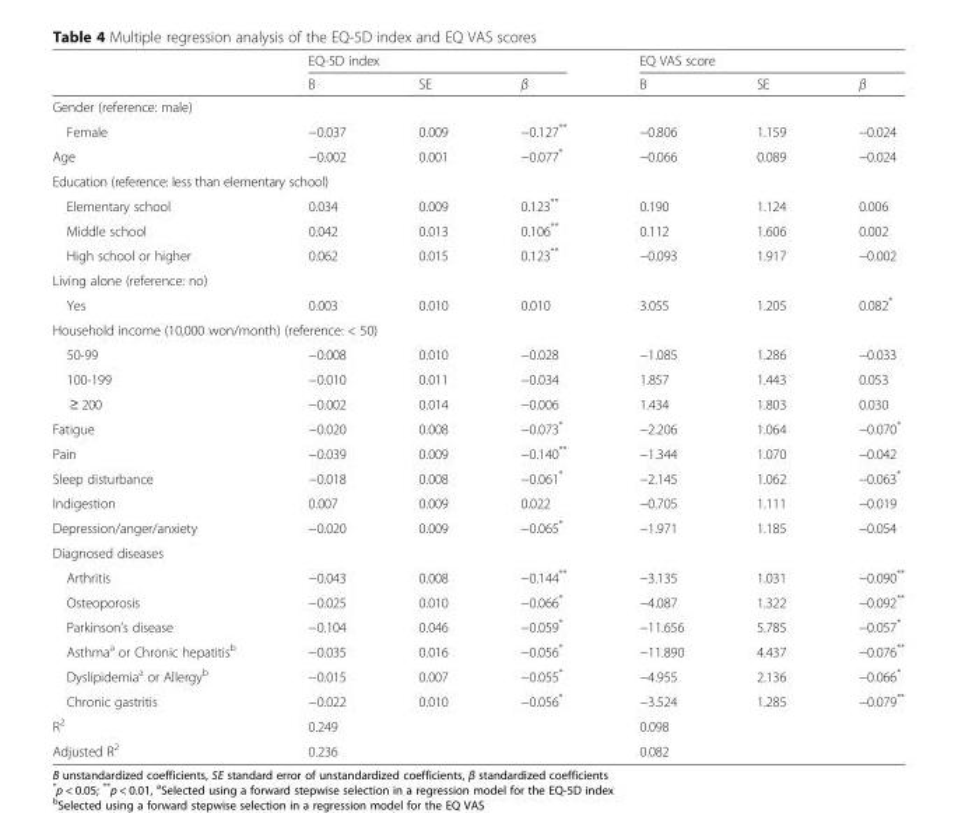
<table><thead><tr><td rowspan="2"></td><td colspan="3">EQ-5D index</td><td colspan="3">EQ VAS score</td></tr><tr><td>B</td><td>SE</td><td>β</td><td>B</td><td>SE</td><td>β</td></tr></thead><tbody><tr><td colspan="7">Gender (reference: male)</td></tr><tr><td>Female</td><td>−0.037</td><td>0.009</td><td>−0.127**</td><td>−0.806</td><td>1.159</td><td>−0.024</td></tr><tr><td>Age</td><td>−0.002</td><td>0.001</td><td>−0.077*</td><td>−0.066</td><td>0.089</td><td>−0.024</td></tr><tr><td colspan="7">Education (reference: less than elementary school)</td></tr><tr><td>Elementary school</td><td>0.034</td><td>0.009</td><td>0.123**</td><td>0.190</td><td>1.124</td><td>0.006</td></tr><tr><td>Middle school</td><td>0.042</td><td>0.013</td><td>0.106**</td><td>0.112</td><td>1.606</td><td>0.002</td></tr><tr><td>High school or higher</td><td>0.062</td><td>0.015</td><td>0.123**</td><td>−0.093</td><td>1.917</td><td>−0.002</td></tr><tr><td colspan="7">Living alone (reference: no)</td></tr><tr><td>Yes</td><td>0.003</td><td>0.010</td><td>0.010</td><td>3.055</td><td>1.205</td><td>0.082*</td></tr><tr><td colspan="7">Household income (10,000 won/month) (reference: &lt; 50)</td></tr><tr><td>50-99</td><td>−0.008</td><td>0.010</td><td>−0.028</td><td>−1.085</td><td>1.286</td><td>−0.033</td></tr><tr><td>100-199</td><td>−0.010</td><td>0.011</td><td>−0.034</td><td>1.857</td><td>1.443</td><td>0.053</td></tr><tr><td>≥ 200</td><td>−0.002</td><td>0.014</td><td>−0.006</td><td>1.434</td><td>1.803</td><td>0.030</td></tr><tr><td>Fatigue</td><td>−0.020</td><td>0.008</td><td>−0.073*</td><td>−2.206</td><td>1.064</td><td>−0.070*</td></tr><tr><td>Pain</td><td>−0.039</td><td>0.009</td><td>−0.140**</td><td>−1.344</td><td>1.070</td><td>−0.042</td></tr><tr><td>Sleep disturbance</td><td>−0.018</td><td>0.008</td><td>−0.061*</td><td>−2.145</td><td>1.062</td><td>−0.063*</td></tr><tr><td>Indigestion</td><td>0.007</td><td>0.009</td><td>0.022</td><td>−0.705</td><td>1.111</td><td>−0.019</td></tr><tr><td>Depression/anger/anxiety</td><td>−0.020</td><td>0.009</td><td>−0.065*</td><td>−1.971</td><td>1.185</td><td>−0.054</td></tr><tr><td colspan="7">Diagnosed diseases</td></tr><tr><td>Arthritis</td><td>−0.043</td><td>0.008</td><td>−0.144**</td><td>−3.135</td><td>1.031</td><td>−0.090**</td></tr><tr><td>Osteoporosis</td><td>−0.025</td><td>0.010</td><td>−0.066*</td><td>−4.087</td><td>1.322</td><td>−0.092**</td></tr><tr><td>Parkinson’s disease</td><td>−0.104</td><td>0.046</td><td>−0.059*</td><td>−11.656</td><td>5.785</td><td>−0.057*</td></tr><tr><td>Asthma<sup>a</sup> or Chronic hepatitis<sup>b</sup></td><td>−0.035</td><td>0.016</td><td>−0.056*</td><td>−11.890</td><td>4.437</td><td>−0.076**</td></tr><tr><td>Dyslipidemia<sup>a</sup> or Allergy<sup>b</sup></td><td>−0.015</td><td>0.007</td><td>−0.055*</td><td>−4.955</td><td>2.136</td><td>−0.066*</td></tr><tr><td>Chronic gastritis</td><td>−0.022</td><td>0.010</td><td>−0.056*</td><td>−3.524</td><td>1.285</td><td>−0.079**</td></tr><tr><td>R<sup>2</sup></td><td>0.249</td><td></td><td></td><td>0.098</td><td></td><td></td></tr><tr><td>Adjusted R<sup>2</sup></td><td>0.236</td><td></td><td></td><td>0.082</td><td></td><td></td></tr></tbody></table>